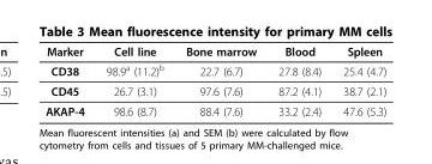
<table><thead><tr><td>Marker</td><td>Cell line</td><td>Bone marrow</td><td>Blood</td><td>Spleen</td></tr></thead><tbody><tr><td>CD38</td><td>98.9<sup>a</sup> (11.2)<sup>b</sup></td><td>22.7 (6.7)</td><td>27.8 (8.4)</td><td>25.4 (4.7)</td></tr><tr><td>CD45</td><td>26.7 (3.1)</td><td>97.6 (7.6)</td><td>87.2 (4.1)</td><td>38.7 (2.1)</td></tr><tr><td>AKAP-4</td><td>98.6 (8.7)</td><td>88.4 (7.6)</td><td>33.2 (2.4)</td><td>47.6 (5.3)</td></tr></tbody></table>